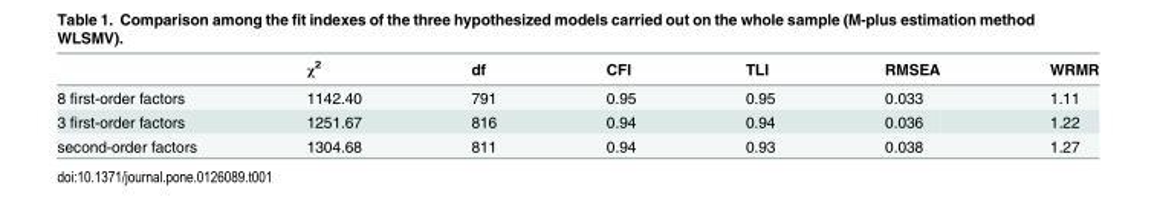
<table><thead><tr><td></td><td>χ<sup>2</sup></td><td>df</td><td>CFI</td><td>TLI</td><td>RMSEA</td><td>WRMR</td></tr></thead><tbody><tr><td>8 first-order factors</td><td>1142.40</td><td>791</td><td>0.95</td><td>0.95</td><td>0.033</td><td>1.11</td></tr><tr><td>3 first-order factors</td><td>1251.67</td><td>816</td><td>0.94</td><td>0.94</td><td>0.036</td><td>1.22</td></tr><tr><td>second-order factors</td><td>1304.68</td><td>811</td><td>0.94</td><td>0.93</td><td>0.038</td><td>1.27</td></tr></tbody></table>